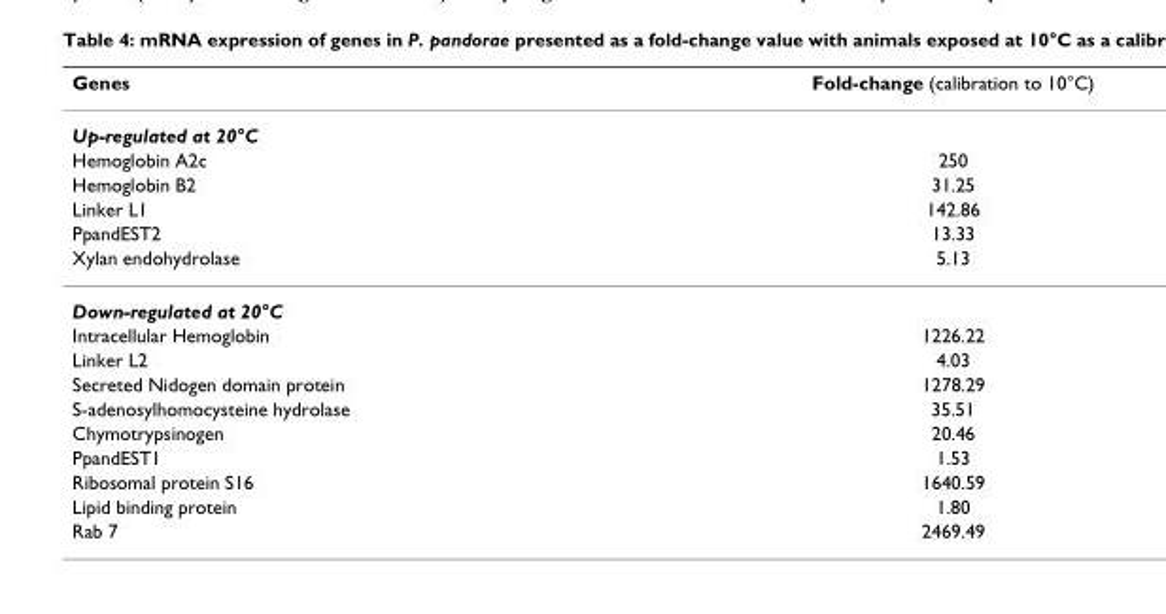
<table><thead><tr><td>Genes</td><td>Fold-change (calibration to 10°C)</td></tr></thead><tbody><tr><td colspan="2">Up-regulated at 20°C</td></tr><tr><td>Hemoglobin A2c</td><td>250</td></tr><tr><td>Hemoglobin B2</td><td>31.25</td></tr><tr><td>Linker L1</td><td>142.86</td></tr><tr><td>PpandEST2</td><td>13.33</td></tr><tr><td>Xylan endohydrolase</td><td>5.13</td></tr><tr><td colspan="2">Down-regulated at 20°C</td></tr><tr><td>Intracellular Hemoglobin</td><td>1226.22</td></tr><tr><td>Linker L2</td><td>4.03</td></tr><tr><td>Secreted Nidogen domain protein</td><td>1278.29</td></tr><tr><td>S-adenosylhomocysteine hydrolase</td><td>35.51</td></tr><tr><td>Chymotrypsinogen</td><td>20.46</td></tr><tr><td>PpandEST1</td><td>1.53</td></tr><tr><td>Ribosomal protein S16</td><td>1640.59</td></tr><tr><td>Lipid binding protein</td><td>1.80</td></tr><tr><td>Rab 7</td><td>2469.49</td></tr></tbody></table>